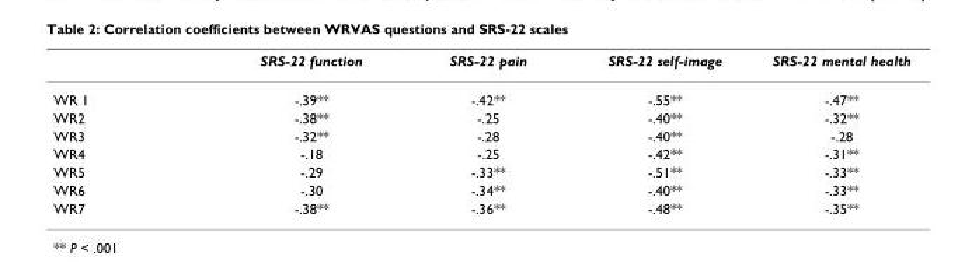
<table><thead><tr><td></td><td>SRS-22 function</td><td>SRS-22 pain</td><td>SRS-22 self-image</td><td>SRS-22 mental health</td></tr></thead><tbody><tr><td>WR 1</td><td>-.39**</td><td>-.42**</td><td>-.55**</td><td>-.47**</td></tr><tr><td>WR2</td><td>-.38**</td><td>-.25</td><td>-.40**</td><td>-.32**</td></tr><tr><td>WR3</td><td>-.32**</td><td>-.28</td><td>-.40**</td><td>-.28</td></tr><tr><td>WR4</td><td>-.18</td><td>-.25</td><td>-.42**</td><td>-.31**</td></tr><tr><td>WR5</td><td>-.29</td><td>-.33**</td><td>-.51**</td><td>-.33**</td></tr><tr><td>WR6</td><td>-.30</td><td>-.34**</td><td>-.40**</td><td>-.33**</td></tr><tr><td>WR7</td><td>-.38**</td><td>-.36**</td><td>-.48**</td><td>-.35**</td></tr></tbody></table>